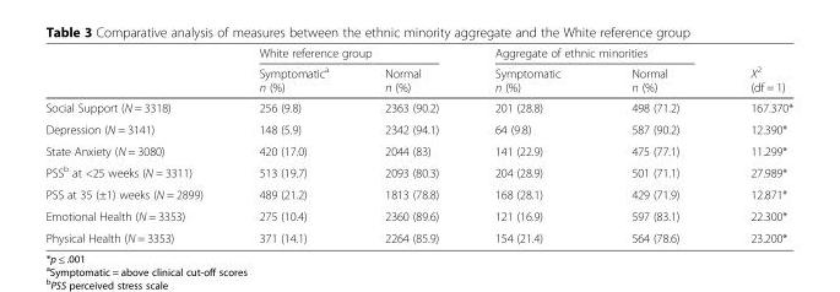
<table><thead><tr><td rowspan="2"></td><td colspan="2">White reference group</td><td colspan="2">Aggregate of ethnic minorities</td><td rowspan="2">X<sup>2</sup> (df = 1)</td></tr><tr><td>Symptomatic<sup>a</sup> n (%)</td><td>Normal n (%)</td><td>Symptomatic n (%)</td><td>Normal n (%)</td></tr></thead><tbody><tr><td>Social Support (N = 3318)</td><td>256 (9.8)</td><td>2363 (90.2)</td><td>201 (28.8)</td><td>498 (71.2)</td><td>167.370*</td></tr><tr><td>Depression (N = 3141)</td><td>148 (5.9)</td><td>2342 (94.1)</td><td>64 (9.8)</td><td>587 (90.2)</td><td>12.390*</td></tr><tr><td>State Anxiety (N = 3080)</td><td>420 (17.0)</td><td>2044 (83)</td><td>141 (22.9)</td><td>475 (77.1)</td><td>11.299*</td></tr><tr><td>PSS<sup>b</sup> at &lt;25 weeks (N = 3311)</td><td>513 (19.7)</td><td>2093 (80.3)</td><td>204 (28.9)</td><td>501 (71.1)</td><td>27.989*</td></tr><tr><td>PSS at 35 (±1) weeks (N = 2899)</td><td>489 (21.2)</td><td>1813 (78.8)</td><td>168 (28.1)</td><td>429 (71.9)</td><td>12.871*</td></tr><tr><td>Emotional Health (N = 3353)</td><td>275 (10.4)</td><td>2360 (89.6)</td><td>121 (16.9)</td><td>597 (83.1)</td><td>22.300*</td></tr><tr><td>Physical Health (N = 3353)</td><td>371 (14.1)</td><td>2264 (85.9)</td><td>154 (21.4)</td><td>564 (78.6)</td><td>23.200*</td></tr></tbody></table>